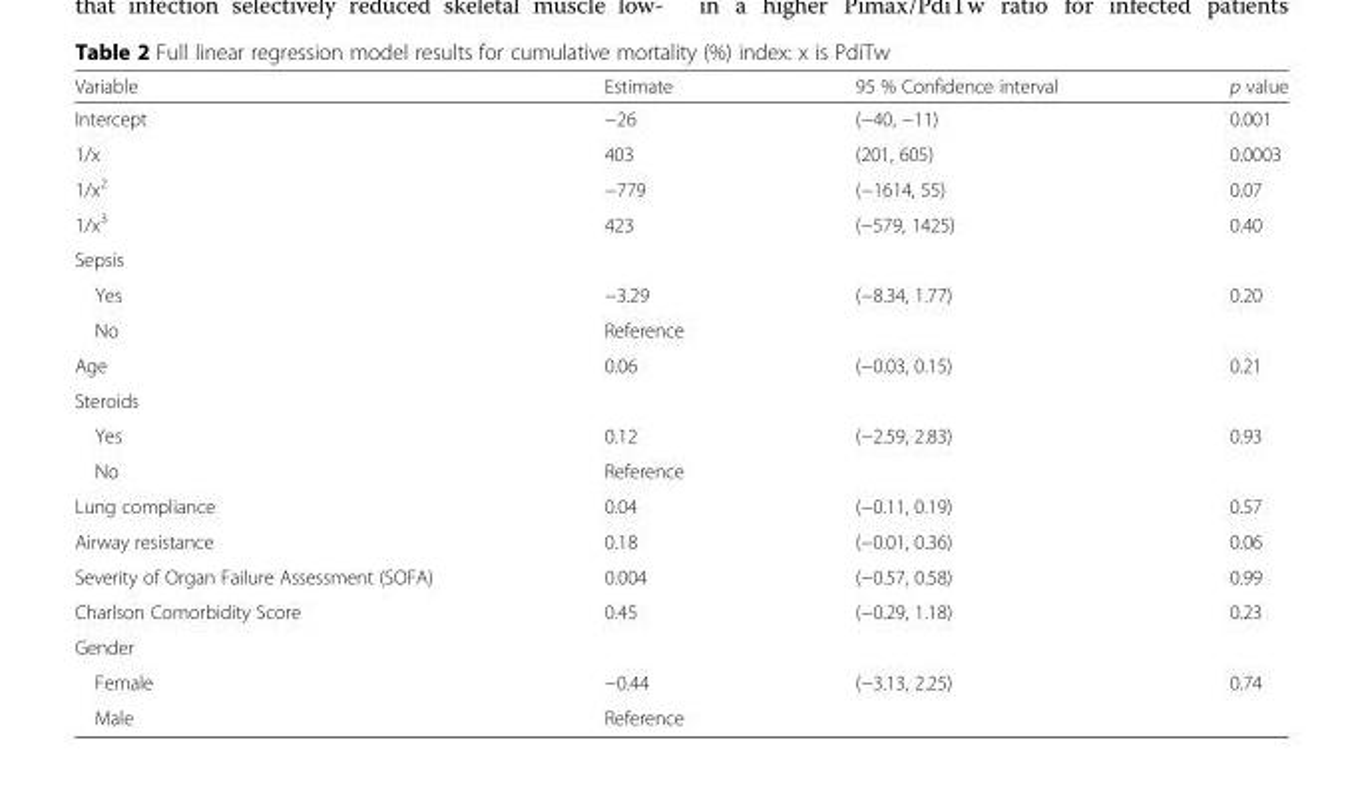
<table><thead><tr><td>Variable</td><td>Estimate</td><td>95 % Confidence interval</td><td>p value</td></tr></thead><tbody><tr><td>Intercept</td><td>−26</td><td>(−40, −11)</td><td>0.001</td></tr><tr><td>1/x</td><td>403</td><td>(201, 605)</td><td>0.0003</td></tr><tr><td>1/x<sup>2</sup></td><td>−779</td><td>(−1614, 55)</td><td>0.07</td></tr><tr><td>1/x<sup>3</sup></td><td>423</td><td>(−579, 1425)</td><td>0.40</td></tr><tr><td colspan="4">Sepsis</td></tr><tr><td>Yes</td><td>−3.29</td><td>(−8.34, 1.77)</td><td>0.20</td></tr><tr><td>No</td><td>Reference</td><td></td><td></td></tr><tr><td>Age</td><td>0.06</td><td>(−0.03, 0.15)</td><td>0.21</td></tr><tr><td colspan="4">Steroids</td></tr><tr><td>Yes</td><td>0.12</td><td rowspan="2">(−2.59, 2.83)</td><td rowspan="2">0.93</td></tr><tr><td>No</td><td>Reference</td></tr><tr><td>Lung compliance</td><td>0.04</td><td>(−0.11, 0.19)</td><td>0.57</td></tr><tr><td>Airway resistance</td><td>0.18</td><td>(−0.01, 0.36)</td><td>0.06</td></tr><tr><td>Severity of Organ Failure Assessment (SOFA)</td><td>0.004</td><td>(−0.57, 0.58)</td><td>0.99</td></tr><tr><td>Charlson Comorbidity Score</td><td>0.45</td><td>(−0.29, 1.18)</td><td>0.23</td></tr><tr><td colspan="4">Gender</td></tr><tr><td>Female</td><td>−0.44</td><td rowspan="2">(−3.13, 2.25)</td><td rowspan="2">0.74</td></tr><tr><td>Male</td><td>Reference</td></tr></tbody></table>